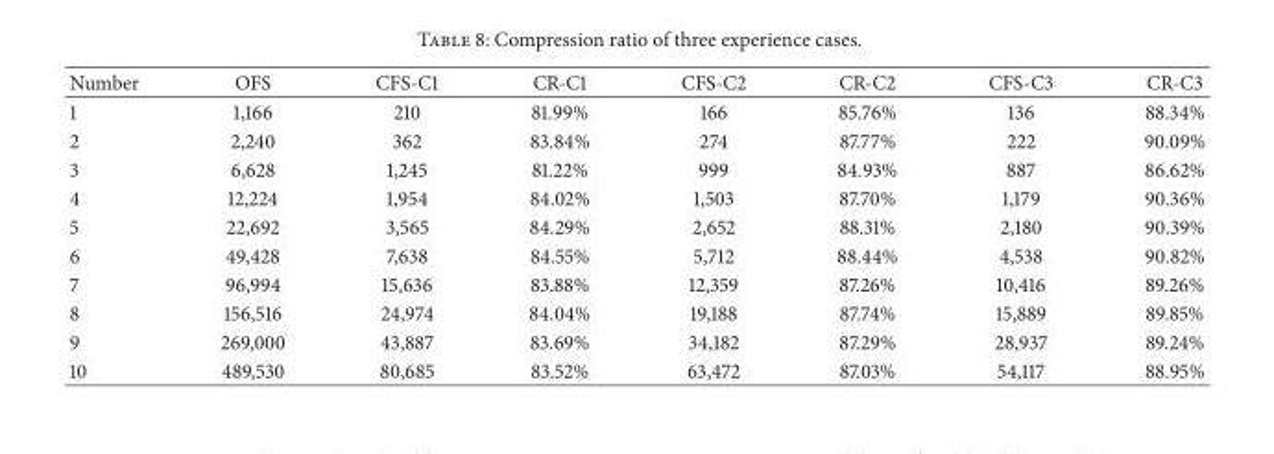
<table><thead><tr><td>Number</td><td>OFS</td><td>CFS-C1</td><td>CR-C1</td><td>CFS-C2</td><td>CR-C2</td><td>CFS-C3</td><td>CR-C3</td></tr></thead><tbody><tr><td>1</td><td>1,166</td><td>210</td><td>81.99%</td><td>166</td><td>85.76%</td><td>136</td><td>88.34%</td></tr><tr><td>2</td><td>2,240</td><td>362</td><td>83.84%</td><td>274</td><td>87.77%</td><td>222</td><td>90.09%</td></tr><tr><td>3</td><td>6,628</td><td>1,245</td><td>81.22%</td><td>999</td><td>84.93%</td><td>887</td><td>86.62%</td></tr><tr><td>4</td><td>12,224</td><td>1,954</td><td>84.02%</td><td>1,503</td><td>87.70%</td><td>1,179</td><td>90.36%</td></tr><tr><td>5</td><td>22,692</td><td>3,565</td><td>84.29%</td><td>2,652</td><td>88.31%</td><td>2,180</td><td>90.39%</td></tr><tr><td>6</td><td>49,428</td><td>7,638</td><td>84.55%</td><td>5,712</td><td>88.44%</td><td>4,538</td><td>90.82%</td></tr><tr><td>7</td><td>96,994</td><td>15,636</td><td>83.88%</td><td>12,359</td><td>87.26%</td><td>10,416</td><td>89.26%</td></tr><tr><td>8</td><td>156,516</td><td>24,974</td><td>84.04%</td><td>19,188</td><td>87.74%</td><td>15,889</td><td>89.85%</td></tr><tr><td>9</td><td>269,000</td><td>43,887</td><td>83.69%</td><td>34,182</td><td>87.29%</td><td>28,937</td><td>89.24%</td></tr><tr><td>10</td><td>489,530</td><td>80,685</td><td>83.52%</td><td>63,472</td><td>87.03%</td><td>54,117</td><td>88.95%</td></tr></tbody></table>